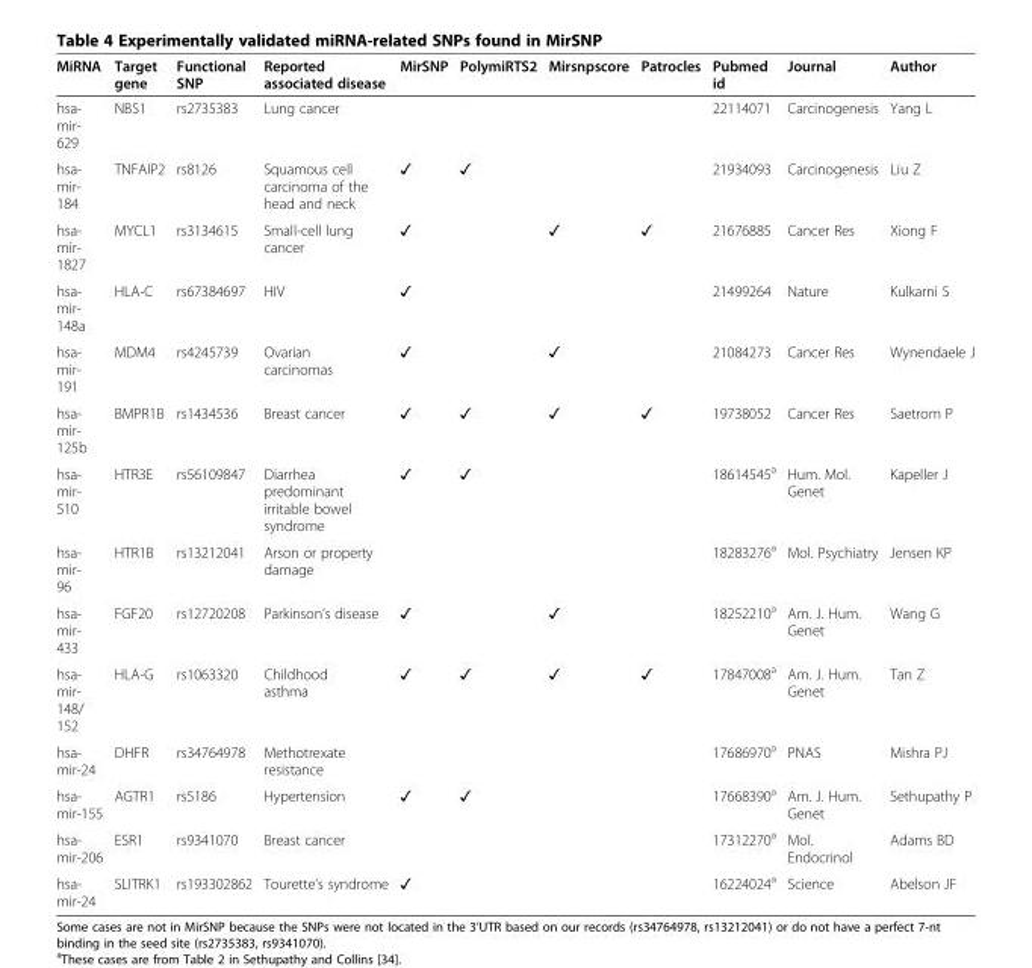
<table><thead><tr><td>MiRNA</td><td>Target gene</td><td>Functional SNP</td><td>Reported associated disease</td><td>MirSNP</td><td>PolymiRTS2</td><td>Mirsnpscore</td><td>Patrocles</td><td>Pubmed id</td><td>Journal</td><td>Author</td></tr></thead><tbody><tr><td>hsa- mir- 629</td><td>NBS1</td><td>rs2735383</td><td>Lung cancer</td><td></td><td></td><td></td><td></td><td>22114071</td><td>Carcinogenesis</td><td>Yang L</td></tr><tr><td>hsa- mir- 184</td><td>TNFAIP2</td><td>rs8126</td><td>Squamous cell carcinoma of the head and neck</td><td>✓</td><td>✓</td><td></td><td></td><td>21934093</td><td>Carcinogenesis</td><td>Liu Z</td></tr><tr><td>hsa- mir- 1827</td><td>MYCL1</td><td>rs3134615</td><td>Small-cell lung cancer</td><td>✓</td><td></td><td>✓</td><td>✓</td><td>21676885</td><td>Cancer Res</td><td>Xiong F</td></tr><tr><td>hsa- mir- 148a</td><td>HLA-C</td><td>rs67384697</td><td>HIV</td><td>✓</td><td></td><td></td><td></td><td>21499264</td><td>Nature</td><td>Kulkarni S</td></tr><tr><td>hsa- mir- 191</td><td>MDM4</td><td>rs4245739</td><td>Ovarian carcinomas</td><td>✓</td><td></td><td>✓</td><td></td><td>21084273</td><td>Cancer Res</td><td>Wynendaele J</td></tr><tr><td>hsa- mir- 125b</td><td>BMPR1B</td><td>rs1434536</td><td>Breast cancer</td><td>✓</td><td>✓</td><td>✓</td><td>✓</td><td>19738052</td><td>Cancer Res</td><td>Saetrom P</td></tr><tr><td>hsa- mir- 510</td><td>HTR3E</td><td>rs56109847</td><td>Diarrhea predominant irritable bowel syndrome</td><td>✓</td><td>✓</td><td></td><td></td><td>18614545<sup>a</sup></td><td>Hum. Mol. Genet</td><td>Kapeller J</td></tr><tr><td>hsa- mir- 96</td><td>HTR1B</td><td>rs13212041</td><td>Arson or property damage</td><td></td><td></td><td></td><td></td><td>18283276<sup>a</sup></td><td>Mol. Psychiatry</td><td>Jensen KP</td></tr><tr><td>hsa- mir- 433</td><td>FGF20</td><td>rs12720208</td><td>Parkinson’s disease</td><td>✓</td><td></td><td>✓</td><td></td><td>18252210<sup>a</sup></td><td>Am. J. Hum. Genet</td><td>Wang G</td></tr><tr><td>hsa- mir- 148/ 152</td><td>HLA-G</td><td>rs1063320</td><td>Childhood asthma</td><td>✓</td><td>✓</td><td>✓</td><td>✓</td><td>17847008<sup>a</sup></td><td>Am. J. Hum. Genet</td><td>Tan Z</td></tr><tr><td>hsa- mir-24</td><td>DHFR</td><td>rs34764978</td><td>Methotrexate resistance</td><td></td><td></td><td></td><td></td><td>17686970<sup>a</sup></td><td>PNAS</td><td>Mishra PJ</td></tr><tr><td>hsa- mir-155</td><td>AGTR1</td><td>rs5186</td><td>Hypertension</td><td>✓</td><td>✓</td><td></td><td></td><td>17668390<sup>a</sup></td><td>Am. J. Hum. Genet</td><td>Sethupathy P</td></tr><tr><td>hsa- mir-206</td><td>ESR1</td><td>rs9341070</td><td>Breast cancer</td><td></td><td></td><td></td><td></td><td>17312270<sup>a</sup></td><td>Mol. Endocrinol</td><td>Adams BD</td></tr><tr><td>hsa- mir-24</td><td>SLITRK1</td><td>rs193302862</td><td>Tourette’s syndrome</td><td>✓</td><td></td><td></td><td></td><td>16224024<sup>a</sup></td><td>Science</td><td>Abelson JF</td></tr></tbody></table>